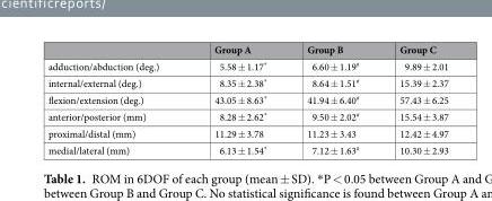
<table><thead><tr><td></td><td>Group A</td><td>Group B</td><td>Group C</td></tr></thead><tbody><tr><td>adduction/abduction (deg.)</td><td>5.58 ± 1.17*</td><td>6.60 ± 1.19<sup>#</sup></td><td>9.89 ± 2.01</td></tr><tr><td>internal/external (deg.)</td><td>8.35 ± 2.38*</td><td>8.64 ± 1.51<sup>#</sup></td><td>15.39 ± 2.37</td></tr><tr><td>flexion/extension (deg.)</td><td>43.05 ± 8.63*</td><td>41.94 ± 6.40<sup>#</sup></td><td>57.43 ± 6.25</td></tr><tr><td>anterior/posterior (mm)</td><td>8.28 ± 2.62*</td><td>9.50 ± 2.02<sup>#</sup></td><td>15.54 ± 3.87</td></tr><tr><td>proximal/distal (mm)</td><td>11.29 ± 3.78</td><td>11.23 ± 3.43</td><td>12.42 ± 4.97</td></tr><tr><td>medial/lateral (mm)</td><td>6.13 ± 1.54*</td><td>7.12 ± 1.63<sup>#</sup></td><td>10.30 ± 2.93</td></tr></tbody></table>